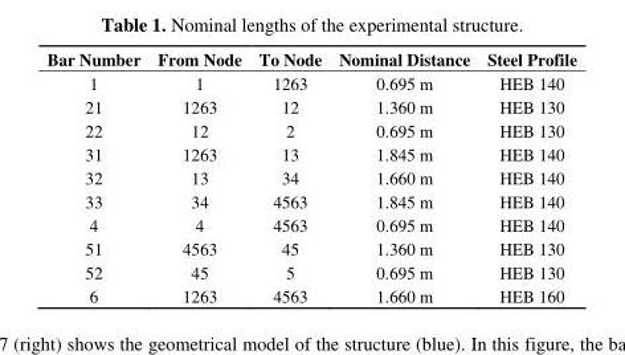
<table><thead><tr><td>Bar Number</td><td>From Node</td><td>To Node</td><td>Nominal Distance</td><td>Steel Profile</td></tr></thead><tbody><tr><td>1</td><td>1</td><td>1263</td><td>0.695 m</td><td>HEB 140</td></tr><tr><td>21</td><td>1263</td><td>12</td><td>1.360 m</td><td>HEB 130</td></tr><tr><td>22</td><td>12</td><td>2</td><td>0.695 m</td><td>HEB 130</td></tr><tr><td>31</td><td>1263</td><td>13</td><td>1.845 m</td><td>HEB 140</td></tr><tr><td>32</td><td>13</td><td>34</td><td>1.660 m</td><td>HEB 140</td></tr><tr><td>33</td><td>34</td><td>4563</td><td>1.845 m</td><td>HEB 140</td></tr><tr><td>4</td><td>4</td><td>4563</td><td>0.695 m</td><td>HEB 140</td></tr><tr><td>51</td><td>4563</td><td>45</td><td>1.360 m</td><td>HEB 130</td></tr><tr><td>52</td><td>45</td><td>5</td><td>0.695 m</td><td>HEB 130</td></tr><tr><td>6</td><td>1263</td><td>4563</td><td>1.660 m</td><td>HEB 160</td></tr></tbody></table>